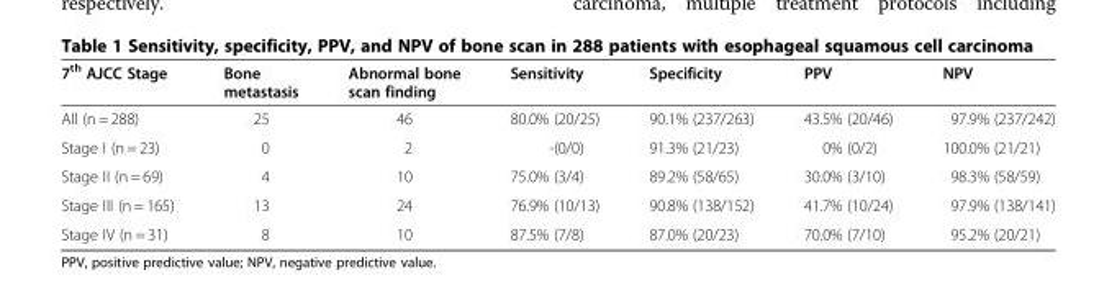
<table><thead><tr><td>7<sup>th</sup> AJCC Stage</td><td>Bone metastasis</td><td>Abnormal bone scan finding</td><td>Sensitivity</td><td>Specificity</td><td>PPV</td><td>NPV</td></tr></thead><tbody><tr><td>All (n = 288)</td><td>25</td><td>46</td><td>80.0% (20/25)</td><td>90.1% (237/263)</td><td>43.5% (20/46)</td><td>97.9% (237/242)</td></tr><tr><td>Stage I (n = 23)</td><td>0</td><td>2</td><td>-(0/0)</td><td>91.3% (21/23)</td><td>0% (0/2)</td><td>100.0% (21/21)</td></tr><tr><td>Stage II (n = 69)</td><td>4</td><td>10</td><td>75.0% (3/4)</td><td>89.2% (58/65)</td><td>30.0% (3/10)</td><td>98.3% (58/59)</td></tr><tr><td>Stage III (n = 165)</td><td>13</td><td>24</td><td>76.9% (10/13)</td><td>90.8% (138/152)</td><td>41.7% (10/24)</td><td>97.9% (138/141)</td></tr><tr><td>Stage IV (n = 31)</td><td>8</td><td>10</td><td>87.5% (7/8)</td><td>87.0% (20/23)</td><td>70.0% (7/10)</td><td>95.2% (20/21)</td></tr></tbody></table>